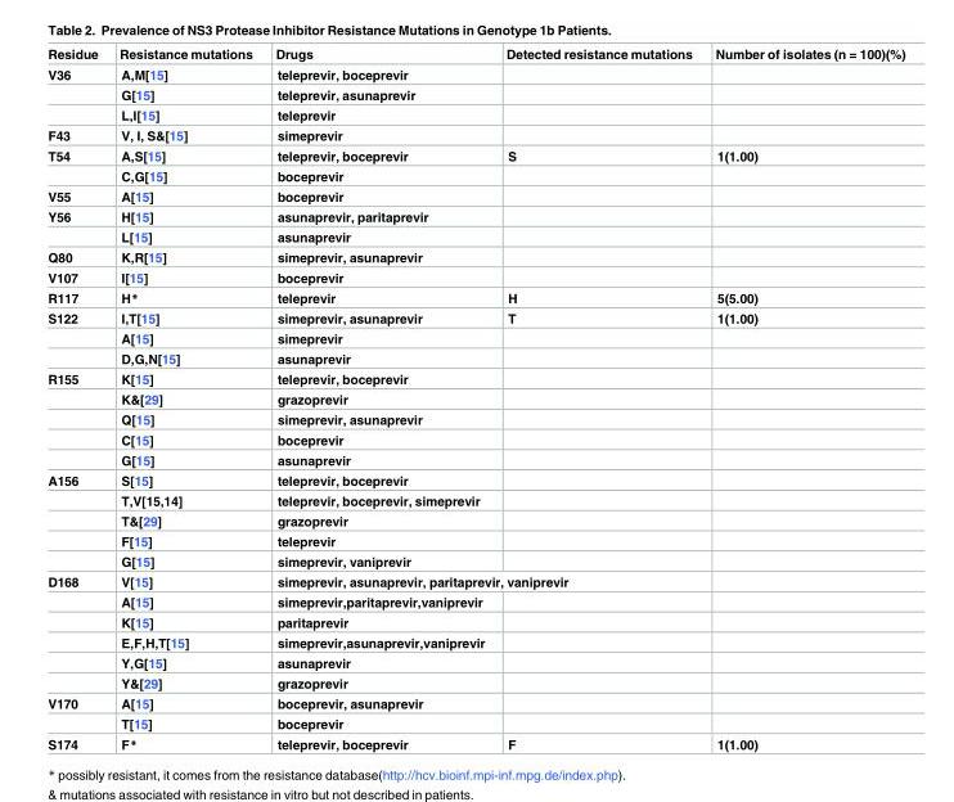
<table><thead><tr><td>Residue</td><td>Resistance mutations</td><td>Drugs</td><td>Detected resistance mutations</td><td>Number of isolates (n = 100)(%)</td></tr></thead><tbody><tr><td rowspan="3">V36</td><td>A,M[15]</td><td>teleprevir, boceprevir</td><td></td><td></td></tr><tr><td>G[15]</td><td>teleprevir, asunaprevir</td><td></td><td></td></tr><tr><td>L,I[15]</td><td>teleprevir</td><td></td><td></td></tr><tr><td>F43</td><td>V, I, S&amp;[15]</td><td>simeprevir</td><td></td><td></td></tr><tr><td rowspan="2">T54</td><td>A,S[15]</td><td>teleprevir, boceprevir</td><td>S</td><td>1(1.00)</td></tr><tr><td>C,G[15]</td><td>boceprevir</td><td></td><td></td></tr><tr><td>V55</td><td>A[15]</td><td>boceprevir</td><td></td><td></td></tr><tr><td rowspan="2">Y56</td><td>H[15]</td><td>asunaprevir, paritaprevir</td><td></td><td></td></tr><tr><td>L[15]</td><td>asunaprevir</td><td></td><td></td></tr><tr><td>Q80</td><td>K,R[15]</td><td>simeprevir, asunaprevir</td><td></td><td></td></tr><tr><td>V107</td><td>I[15]</td><td>boceprevir</td><td></td><td></td></tr><tr><td>R117</td><td>H*</td><td>teleprevir</td><td>H</td><td>5(5.00)</td></tr><tr><td rowspan="3">S122</td><td>I,T[15]</td><td>simeprevir, asunaprevir</td><td>T</td><td>1(1.00)</td></tr><tr><td>A[15]</td><td>simeprevir</td><td></td><td></td></tr><tr><td>D,G,N[15]</td><td>asunaprevir</td><td></td><td></td></tr><tr><td rowspan="5">R155</td><td>K[15]</td><td>teleprevir, boceprevir</td><td></td><td></td></tr><tr><td>K&amp;[29]</td><td>grazoprevir</td><td></td><td></td></tr><tr><td>Q[15]</td><td>simeprevir, asunaprevir</td><td></td><td></td></tr><tr><td>C[15]</td><td>boceprevir</td><td></td><td></td></tr><tr><td>G[15]</td><td>asunaprevir</td><td></td><td></td></tr><tr><td rowspan="5">A156</td><td>S[15]</td><td>teleprevir, boceprevir</td><td></td><td></td></tr><tr><td>T,V[15,14]</td><td>teleprevir, boceprevir, simeprevir</td><td></td><td></td></tr><tr><td>T&amp;[29]</td><td>grazoprevir</td><td></td><td></td></tr><tr><td>F[15]</td><td>teleprevir</td><td></td><td></td></tr><tr><td>G[15]</td><td>simeprevir, vaniprevir</td><td></td><td></td></tr><tr><td rowspan="6">D168</td><td>V[15]</td><td colspan="2">simeprevir, asunaprevir, paritaprevir, vaniprevir</td><td></td></tr><tr><td>A[15]</td><td>simeprevir,paritaprevir,vaniprevir</td><td></td><td></td></tr><tr><td>K[15]</td><td>paritaprevir</td><td></td><td></td></tr><tr><td>E,F,H,T[15]</td><td>simeprevir,asunaprevir,vaniprevir</td><td></td><td></td></tr><tr><td>Y,G[15]</td><td>asunaprevir</td><td></td><td></td></tr><tr><td>Y&amp;[29]</td><td>grazoprevir</td><td></td><td></td></tr><tr><td rowspan="2">V170</td><td>A[15]</td><td>boceprevir, asunaprevir</td><td></td><td></td></tr><tr><td>T[15]</td><td>boceprevir</td><td></td><td></td></tr><tr><td>S174</td><td>F*</td><td>teleprevir, boceprevir</td><td>F</td><td>1(1.00)</td></tr></tbody></table>